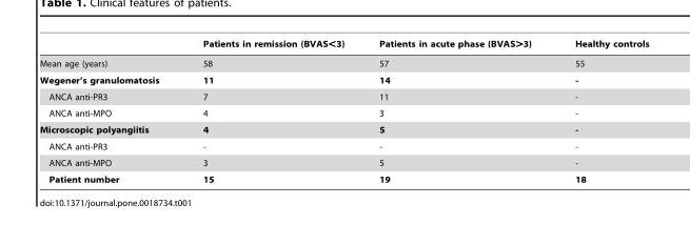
<table><thead><tr><td></td><td>Patients in remission (BVAS&lt;3)</td><td>Patients in acute phase (BVAS&gt;3)</td><td>Healthy controls</td></tr></thead><tbody><tr><td>Mean age (years)</td><td>58</td><td>57</td><td>55</td></tr><tr><td>Wegener’s granulomatosis</td><td>11</td><td>14</td><td>-</td></tr><tr><td>ANCA anti-PR3</td><td>7</td><td>11</td><td>-</td></tr><tr><td>ANCA anti-MPO</td><td>4</td><td>3</td><td>-</td></tr><tr><td>Microscopic polyangiitis</td><td>4</td><td>5</td><td>-</td></tr><tr><td>ANCA anti-PR3</td><td>-</td><td>-</td><td>-</td></tr><tr><td>ANCA anti-MPO</td><td>3</td><td>5</td><td>-</td></tr><tr><td>Patient number</td><td>15</td><td>19</td><td>18</td></tr></tbody></table>